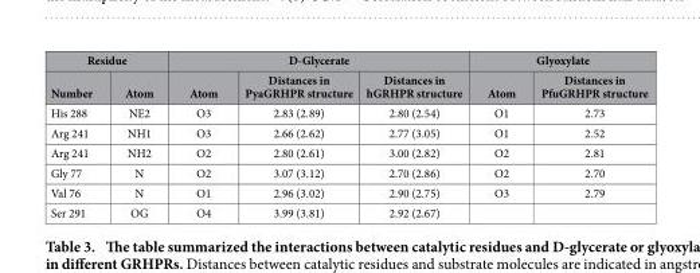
<table><thead><tr><td colspan="2">Residue</td><td colspan="3">D-Glycerate</td><td colspan="2">Glyoxylate</td></tr><tr><td>Number</td><td>Atom</td><td>Atom</td><td>Distances in PyaGRHPR structure</td><td>Distances in hGRHPR structure</td><td>Atom</td><td>Distances in PfuGRHPR structure</td></tr></thead><tbody><tr><td>His 288</td><td>NE2</td><td>O3</td><td>2.83 (2.89)</td><td>2.80 (2.54)</td><td>O1</td><td>2.73</td></tr><tr><td>Arg 241</td><td>NH1</td><td>O3</td><td>2.66 (2.62)</td><td>2.77 (3.05)</td><td>O1</td><td>2.52</td></tr><tr><td>Arg 241</td><td>NH2</td><td>O2</td><td>2.80 (2.61)</td><td>3.00 (2.82)</td><td>O2</td><td>2.81</td></tr><tr><td>Gly 77</td><td>N</td><td>O2</td><td>3.07 (3.12)</td><td>2.70 (2.86)</td><td>O2</td><td>2.70</td></tr><tr><td>Val 76</td><td>N</td><td>O1</td><td>2.96 (3.02)</td><td>2.90 (2.75)</td><td>O3</td><td>2.79</td></tr><tr><td>Ser 291</td><td>OG</td><td>O4</td><td>3.99 (3.81)</td><td>2.92 (2.67)</td><td></td><td></td></tr></tbody></table>